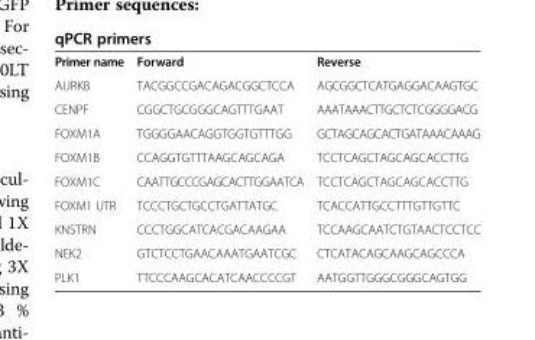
<table><tbody><tr><td>Primer name</td><td>Forward</td><td>Reverse</td></tr><tr><td>AURKB</td><td>TACGGCCGACAGACGGCTCCA</td><td>AGCGGCTCATGAGGACAAGTGC</td></tr><tr><td>CENPF</td><td>CGGCTGCGGGCAGTTTGAAT</td><td>AAATAAACTTGCTCTCGGGGACG</td></tr><tr><td>FOXM1A</td><td>TGGGGAACAGGTGGTGTTTGG</td><td>GCTAGCAGCACTGATAAACAAAG</td></tr><tr><td>FOXM1B</td><td>CCAGGTGTTTAAGCAGCAGA</td><td>TCCTCAGCTAGCAGCACCTTG</td></tr><tr><td>FOXM1C</td><td>CAATTGCCCGAGCACTTGGAATCA</td><td>TCCTCAGCTAGCAGCACCTTG</td></tr><tr><td>FOXM1 UTR</td><td>TCCCTGCTGCCTGATTATGC</td><td>TCACCATTGCCTTTGTTGTTC</td></tr><tr><td>KNSTRN</td><td>CCCTGGCATCACGACAAGAA</td><td>TCCAAGCAATCTGTAACTCCTCC</td></tr><tr><td>NEK2</td><td>GTCTCCTGAACAAATGAATCGC</td><td>CTCATACAGCAAGCAGCCCA</td></tr><tr><td>PLK1</td><td>TTCCCAAGCACATCAACCCCGT</td><td>AATGGTTGGGCGGGCAGTGG</td></tr></tbody></table>